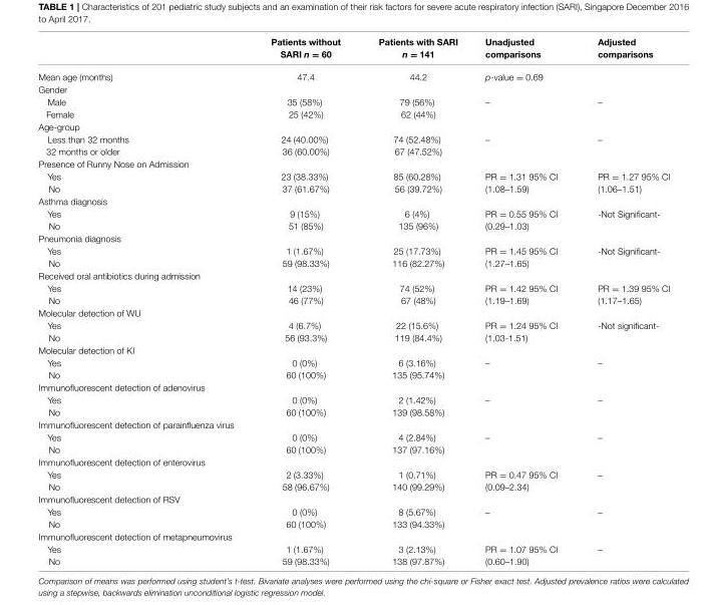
<table><thead><tr><td></td><td>Patients without SARI n = 60</td><td>Patients with SARI n = 141</td><td>Unadjusted comparisons</td><td>Adjusted comparisons</td></tr></thead><tbody><tr><td>Mean age (months)</td><td>47.4</td><td>44.2</td><td>p-value = 0.69</td><td></td></tr><tr><td colspan="5">Gender</td></tr><tr><td>Male Female</td><td>35 (58%) 25 (42%)</td><td>79 (56%) 62 (44%)</td><td>–</td><td>–</td></tr><tr><td colspan="5">Age-group</td></tr><tr><td>Less than 32 months 32 months or older</td><td>24 (40.00%) 36 (60.00%)</td><td>74 (52.48%) 67 (47.52%)</td><td>–</td><td>–</td></tr><tr><td colspan="5">Presence of Runny Nose on Admission</td></tr><tr><td>Yes No</td><td>23 (38.33%) 37 (61.67%)</td><td>85 (60.28%) 56 (39.72%)</td><td>PR = 1.31 95% CI (1.08–1.59)</td><td>PR = 1.27 95% CI (1.06–1.51)</td></tr><tr><td colspan="5">Asthma diagnosis</td></tr><tr><td>Yes No</td><td>9 (15%) 51 (85%)</td><td>6 (4%) 135 (96%)</td><td>PR = 0.55 95% CI (0.29–1.03)</td><td>-Not Significant-</td></tr><tr><td colspan="5">Pneumonia diagnosis</td></tr><tr><td>Yes No</td><td>1 (1.67%) 59 (98.33%)</td><td>25 (17.73%) 116 (82.27%)</td><td>PR = 1.45 95% CI (1.27–1.65)</td><td>-Not Significant-</td></tr><tr><td colspan="5">Received oral antibiotics during admission</td></tr><tr><td>Yes No</td><td>14 (23%) 46 (77%)</td><td>74 (52%) 67 (48%)</td><td>PR = 1.42 95% CI (1.19–1.69)</td><td>PR = 1.39 95% CI (1.17–1.65)</td></tr><tr><td colspan="5">Molecular detection of WU</td></tr><tr><td>Yes No</td><td>4 (6.7%) 56 (93.3%)</td><td>22 (15.6%) 119 (84.4%)</td><td>PR = 1.24 95% CI (1.03-1.51)</td><td>-Not significant-</td></tr><tr><td colspan="5">Molecular detection of KI</td></tr><tr><td>Yes No</td><td>0 (0%) 60 (100%)</td><td>6 (3.16%) 135 (95.74%)</td><td>–</td><td>–</td></tr><tr><td colspan="5">Immunofluorescent detection of adenovirus</td></tr><tr><td>Yes No</td><td>0 (0%) 60 (100%)</td><td>2 (1.42%) 139 (98.58%)</td><td>–</td><td>–</td></tr><tr><td colspan="5">Immunofluorescent detection of parainfluenza virus</td></tr><tr><td>Yes No</td><td>0 (0%) 60 (100%)</td><td>4 (2.84%) 137 (97.16%)</td><td>–</td><td>–</td></tr><tr><td colspan="5">Immunofluorescent detection of enterovirus</td></tr><tr><td>Yes No</td><td>2 (3.33%) 58 (96.67%)</td><td>1 (0.71%) 140 (99.29%)</td><td>PR = 0.47 95% CI (0.09–2.34)</td><td>–</td></tr><tr><td colspan="5">Immunofluorescent detection of RSV</td></tr><tr><td>Yes No</td><td>0 (0%) 60 (100%)</td><td>8 (5.67%) 133 (94.33%)</td><td>–</td><td>–</td></tr><tr><td colspan="5">Immunofluorescent detection of metapneumovirus</td></tr><tr><td>Yes No</td><td>1 (1.67%) 59 (98.33%)</td><td>3 (2.13%) 138 (97.87%)</td><td>PR = 1.07 95% CI (0.60–1.90)</td><td>–</td></tr></tbody></table>